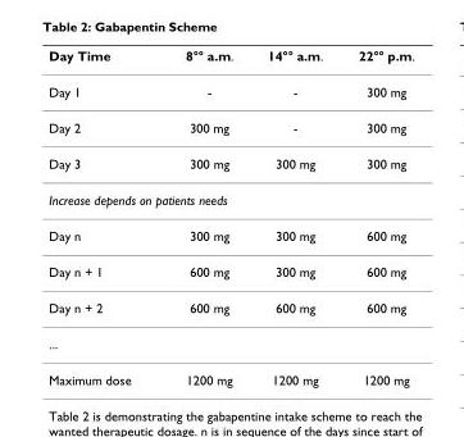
<table><thead><tr><td>Day Time</td><td>8°° a.m.</td><td>14°° a.m.</td><td>22°° p.m.</td></tr></thead><tbody><tr><td>Day 1</td><td>-</td><td>-</td><td>300 mg</td></tr><tr><td>Day 2</td><td>300 mg</td><td>-</td><td>300 mg</td></tr><tr><td>Day 3</td><td>300 mg</td><td>300 mg</td><td>300 mg</td></tr><tr><td colspan="4">Increase depends on patients needs</td></tr><tr><td>Day n</td><td>300 mg</td><td>300 mg</td><td>600 mg</td></tr><tr><td>Day n + 1</td><td>600 mg</td><td>300 mg</td><td>600 mg</td></tr><tr><td>Day n + 2</td><td>600 mg</td><td>600 mg</td><td>600 mg</td></tr><tr><td colspan="4">...</td></tr><tr><td>Maximum dose</td><td>1200 mg</td><td>1200 mg</td><td>1200 mg</td></tr></tbody></table>